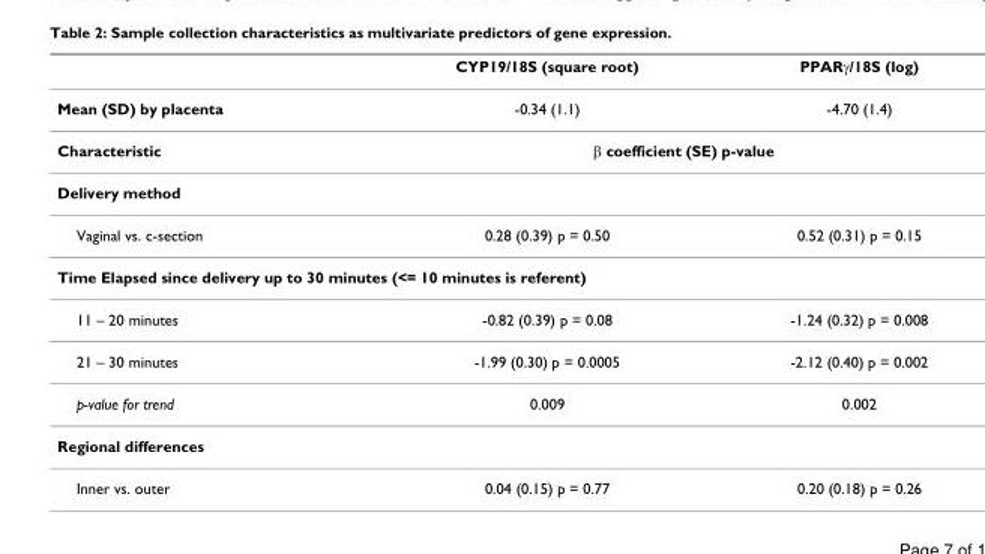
<table><thead><tr><td></td><td>CYP19/18S (square root)</td><td>PPARγ/18S (log)</td></tr></thead><tbody><tr><td>Mean (SD) by placenta</td><td>-0.34 (1.1)</td><td>-4.70 (1.4)</td></tr><tr><td>Characteristic</td><td colspan="2">β coefficient (SE) p-value</td></tr><tr><td colspan="3">Delivery method</td></tr><tr><td>Vaginal vs. c-section</td><td>0.28 (0.39) p = 0.50</td><td>0.52 (0.31) p = 0.15</td></tr><tr><td colspan="3">Time Elapsed since delivery up to 30 minutes (&lt;= 10 minutes is referent)</td></tr><tr><td>11 – 20 minutes</td><td>-0.82 (0.39) p = 0.08</td><td>-1.24 (0.32) p = 0.008</td></tr><tr><td>21 – 30 minutes</td><td>-1.99 (0.30) p = 0.0005</td><td>-2.12 (0.40) p = 0.002</td></tr><tr><td>p-value for trend</td><td>0.009</td><td>0.002</td></tr><tr><td colspan="3">Regional differences</td></tr><tr><td>Inner vs. outer</td><td>0.04 (0.15) p = 0.77</td><td>0.20 (0.18) p = 0.26</td></tr></tbody></table>